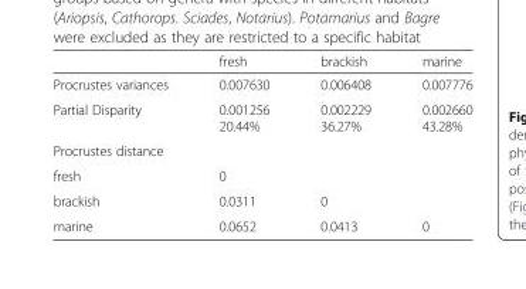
<table><thead><tr><td></td><td>fresh</td><td>brackish</td><td>marine</td></tr></thead><tbody><tr><td>Procrustes variances</td><td>0.007630</td><td>0.006408</td><td>0.007776</td></tr><tr><td>Partial Disparity</td><td>0.001256 20.44%</td><td>0.002229 36.27%</td><td>0.002660 43.28%</td></tr><tr><td colspan="4">Procrustes distance</td></tr><tr><td>fresh</td><td>0</td><td></td><td></td></tr><tr><td>brackish</td><td>0.0311</td><td>0</td><td></td></tr><tr><td>marine</td><td>0.0652</td><td>0.0413</td><td>0</td></tr></tbody></table>